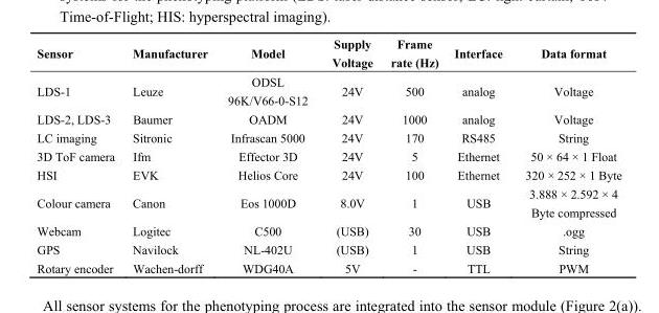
<table><thead><tr><td>Sensor</td><td>Manufacturer</td><td>Model</td><td>Supply Voltage</td><td>Frame rate (Hz)</td><td>Interface</td><td>Data format</td></tr></thead><tbody><tr><td>LDS-1</td><td>Leuze</td><td>ODSL 96K/V66-0-S12</td><td>24V</td><td>500</td><td>analog</td><td>Voltage</td></tr><tr><td>LDS-2, LDS-3</td><td>Baumer</td><td>OADM</td><td>24V</td><td>1000</td><td>analog</td><td>Voltage</td></tr><tr><td>LC imaging</td><td>Sitronic</td><td>Infrascan 5000</td><td>24V</td><td>170</td><td>RS485</td><td>String</td></tr><tr><td>3D ToF camera</td><td>Ifm</td><td>Effector 3D</td><td>24V</td><td>5</td><td>Ethernet</td><td>50 × 64 × 1 Float</td></tr><tr><td>HSI</td><td>EVK</td><td>Helios Core</td><td>24V</td><td>100</td><td>Ethernet</td><td>320 × 252 × 1 Byte</td></tr><tr><td>Colour camera</td><td>Canon</td><td>Eos 1000D</td><td>8.0V</td><td>1</td><td>USB</td><td>3.888 × 2.592 × 4 Byte compressed</td></tr><tr><td>Webcam</td><td>Logitec</td><td>C500</td><td>(USB)</td><td>30</td><td>USB</td><td>.ogg</td></tr><tr><td>GPS</td><td>Navilock</td><td>NL-402U</td><td>(USB)</td><td>1</td><td>USB</td><td>String</td></tr><tr><td>Rotary encoder</td><td>Wachen-dorff</td><td>WDG40A</td><td>5V</td><td>-</td><td>TTL</td><td>PWM</td></tr></tbody></table>